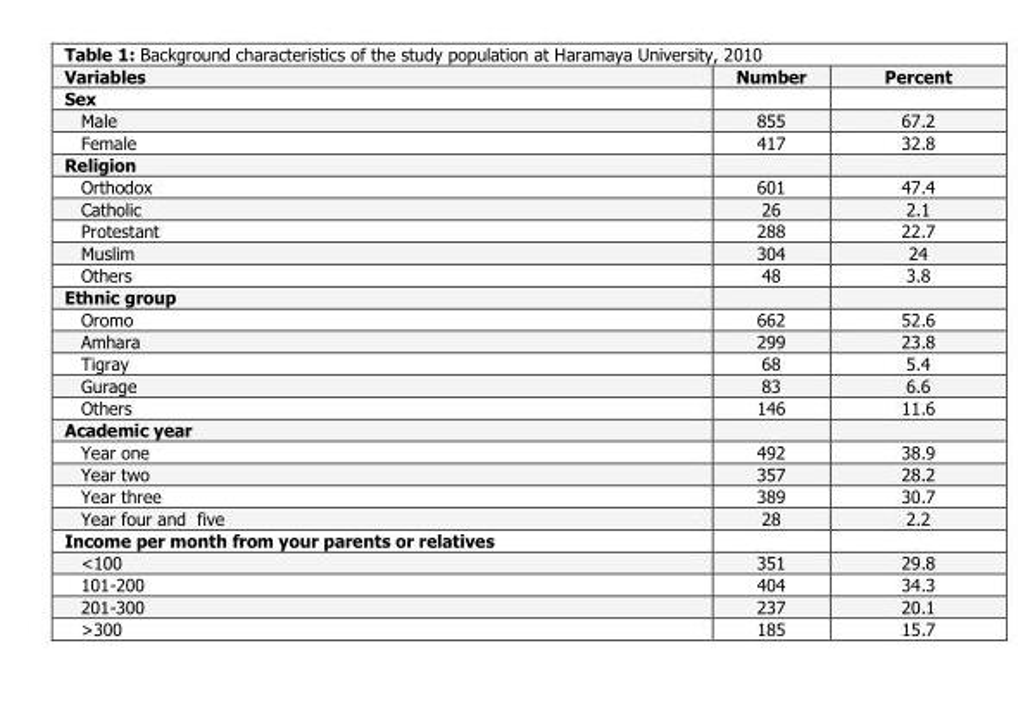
<table><thead><tr><td>Variables</td><td>Number</td><td>Percent</td></tr></thead><tbody><tr><td colspan="3">Sex</td></tr><tr><td>Male</td><td>855</td><td>67.2</td></tr><tr><td>Female</td><td>417</td><td>32.8</td></tr><tr><td colspan="3">Religion</td></tr><tr><td>Orthodox</td><td>601</td><td>47.4</td></tr><tr><td>Catholic</td><td>26</td><td>2.1</td></tr><tr><td>Protestant</td><td>288</td><td>22.7</td></tr><tr><td>Muslim</td><td>304</td><td>24</td></tr><tr><td>Others</td><td>48</td><td>3.8</td></tr><tr><td colspan="3">Ethnic group</td></tr><tr><td>Oromo</td><td>662</td><td>52.6</td></tr><tr><td>Amhara</td><td>299</td><td>23.8</td></tr><tr><td>Tigray</td><td>68</td><td>5.4</td></tr><tr><td>Gurage</td><td>83</td><td>6.6</td></tr><tr><td>Others</td><td>146</td><td>11.6</td></tr><tr><td colspan="3">Academic year</td></tr><tr><td>Year one</td><td>492</td><td>38.9</td></tr><tr><td>Year two</td><td>357</td><td>28.2</td></tr><tr><td>Year three</td><td>389</td><td>30.7</td></tr><tr><td>Year four and five</td><td>28</td><td>2.2</td></tr><tr><td colspan="3">Income per month from your parents or relatives</td></tr><tr><td>&lt;100</td><td>351</td><td>29.8</td></tr><tr><td>101-200</td><td>404</td><td>34.3</td></tr><tr><td>201-300</td><td>237</td><td>20.1</td></tr><tr><td>&gt;300</td><td>185</td><td>15.7</td></tr></tbody></table>